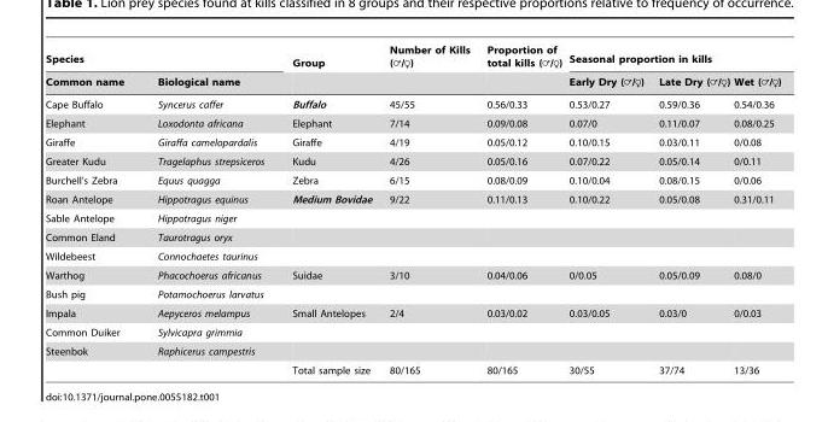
<table><thead><tr><td colspan="2">Species</td><td rowspan="2">Group</td><td rowspan="2">Number of Kills (=/R)</td><td rowspan="2">Proportion of total kills (=/R)</td><td colspan="3">Seasonal proportion in kills</td></tr><tr><td>Common name</td><td>Biological name</td><td>Early Dry (=/R)</td><td>Late Dry (=/R)</td><td>Wet (=/R)</td></tr></thead><tbody><tr><td>Cape Buffalo</td><td>Syncerus caffer</td><td>Buffalo</td><td>45/55</td><td>0.56/0.33</td><td>0.53/0.27</td><td>0.59/0.36</td><td>0.54/0.36</td></tr><tr><td>Elephant</td><td>Loxodonta africana</td><td>Elephant</td><td>7/14</td><td>0.09/0.08</td><td>0.07/0</td><td>0.11/0.07</td><td>0.08/0.25</td></tr><tr><td>Giraffe</td><td>Giraffa camelopardalis</td><td>Giraffe</td><td>4/19</td><td>0.05/0.12</td><td>0.10/0.15</td><td>0.03/0.11</td><td>0/0.08</td></tr><tr><td>Greater Kudu</td><td>Tragelaphus strepsiceros</td><td>Kudu</td><td>4/26</td><td>0.05/0.16</td><td>0.07/0.22</td><td>0.05/0.14</td><td>0/0.11</td></tr><tr><td>Burchell’s Zebra</td><td>Equus quagga</td><td>Zebra</td><td>6/15</td><td>0.08/0.09</td><td>0.10/0.04</td><td>0.08/0.15</td><td>0/0.06</td></tr><tr><td>Roan Antelope</td><td>Hippotragus equinus</td><td>Medium Bovidae</td><td>9/22</td><td>0.11/0.13</td><td>0.10/0.22</td><td>0.05/0.08</td><td>0.31/0.11</td></tr><tr><td>Sable Antelope</td><td>Hippotragus niger</td><td></td><td></td><td></td><td></td><td></td><td></td></tr><tr><td>Common Eland</td><td>Taurotragus oryx</td><td></td><td></td><td></td><td></td><td></td><td></td></tr><tr><td>Wildebeest</td><td>Connochaetes taurinus</td><td></td><td></td><td></td><td></td><td></td><td></td></tr><tr><td>Warthog</td><td>Phacochoerus africanus</td><td>Suidae</td><td>3/10</td><td>0.04/0.06</td><td>0/0.05</td><td>0.05/0.09</td><td>0.08/0</td></tr><tr><td>Bush pig</td><td>Potamochoerus larvatus</td><td></td><td></td><td></td><td></td><td></td><td></td></tr><tr><td>Impala</td><td>Aepyceros melampus</td><td>Small Antelopes</td><td>2/4</td><td>0.03/0.02</td><td>0.03/0.05</td><td>0.03/0</td><td>0/0.03</td></tr><tr><td>Common Duiker</td><td>Sylvicapra grimmia</td><td></td><td></td><td></td><td></td><td></td><td></td></tr><tr><td rowspan="2">Steenbok</td><td>Raphicerus campestris</td><td></td><td></td><td></td><td></td><td></td><td></td></tr><tr><td></td><td>Total sample size</td><td>80/165</td><td>80/165</td><td>30/55</td><td>37/74</td><td>13/36</td></tr></tbody></table>